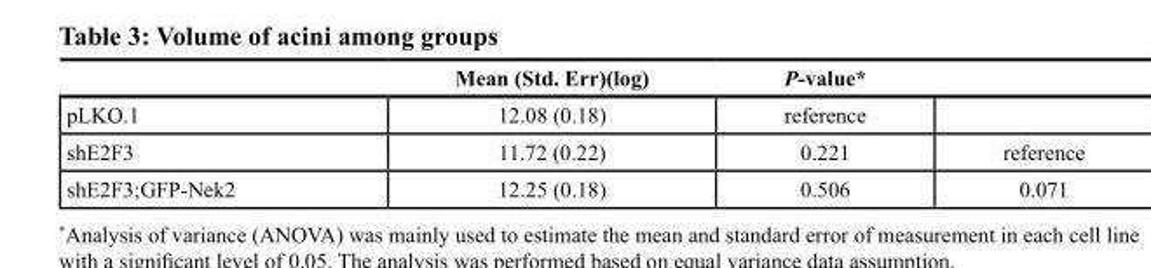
<table><thead><tr><td></td><td>Mean (Std. Err)(log)</td><td>P-value*</td><td></td></tr></thead><tbody><tr><td>pLKO.1</td><td>12.08 (0.18)</td><td>reference</td><td></td></tr><tr><td>shE2F3</td><td>11.72 (0.22)</td><td>0.221</td><td>reference</td></tr><tr><td>shE2F3;GFP-Nek2</td><td>12.25 (0.18)</td><td>0.506</td><td>0.071</td></tr></tbody></table>